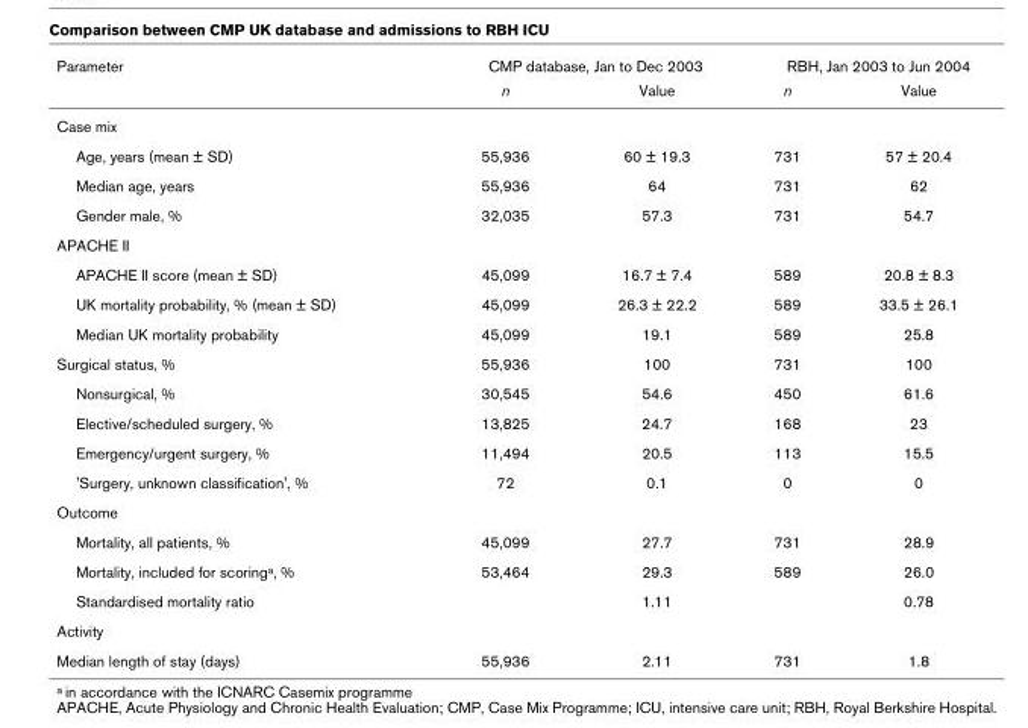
<table><thead><tr><td rowspan="2">Parameter</td><td colspan="2">CMP database, Jan to Dec 2003</td><td colspan="2">RBH, Jan 2003 to Jun 2004</td></tr><tr><td>n</td><td>Value</td><td>n</td><td>Value</td></tr></thead><tbody><tr><td colspan="5">Case mix</td></tr><tr><td>Age, years (mean ± SD)</td><td>55,936</td><td>60 ± 19.3</td><td>731</td><td>57 ± 20.4</td></tr><tr><td>Median age, years</td><td>55,936</td><td>64</td><td>731</td><td>62</td></tr><tr><td>Gender male, %</td><td>32,035</td><td>57.3</td><td>731</td><td>54.7</td></tr><tr><td colspan="5">APACHE II</td></tr><tr><td>APACHE II score (mean ± SD)</td><td>45,099</td><td>16.7 ± 7.4</td><td>589</td><td>20.8 ± 8.3</td></tr><tr><td>UK mortality probability, % (mean ± SD)</td><td>45,099</td><td>26.3 ± 22.2</td><td>589</td><td>33.5 ± 26.1</td></tr><tr><td>Median UK mortality probability</td><td>45,099</td><td>19.1</td><td>589</td><td>25.8</td></tr><tr><td>Surgical status, %</td><td>55,936</td><td>100</td><td>731</td><td>100</td></tr><tr><td>Nonsurgical, %</td><td>30,545</td><td>54.6</td><td>450</td><td>61.6</td></tr><tr><td>Elective/scheduled surgery, %</td><td>13,825</td><td>24.7</td><td>168</td><td>23</td></tr><tr><td>Emergency/urgent surgery, %</td><td>11,494</td><td>20.5</td><td>113</td><td>15.5</td></tr><tr><td>&#x27;Surgery, unknown classification&#x27;, %</td><td>72</td><td>0.1</td><td>0</td><td>0</td></tr><tr><td colspan="5">Outcome</td></tr><tr><td>Mortality, all patients, %</td><td>45,099</td><td>27.7</td><td>731</td><td>28.9</td></tr><tr><td>Mortality, included for scoringa, %</td><td>53,464</td><td>29.3</td><td>589</td><td>26.0</td></tr><tr><td>Standardised mortality ratio</td><td></td><td>1.11</td><td></td><td>0.78</td></tr><tr><td colspan="5">Activity</td></tr><tr><td>Median length of stay (days)</td><td>55,936</td><td>2.11</td><td>731</td><td>1.8</td></tr></tbody></table>